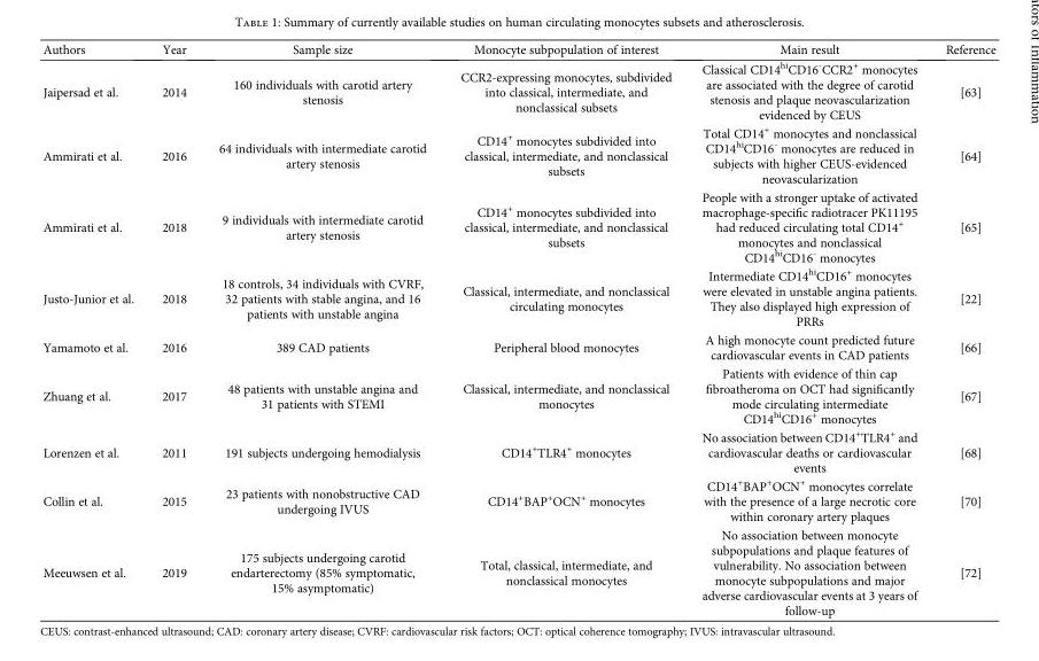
<table><thead><tr><td>Authors</td><td>Year</td><td>Sample size</td><td>Monocyte subpopulation of interest</td><td>Main result</td><td>Reference</td></tr></thead><tbody><tr><td>Jaipersad et al.</td><td>2014</td><td>160 individuals with carotid artery stenosis</td><td>CCR2-expressing monocytes, subdivided into classical, intermediate, and nonclassical subsets</td><td>Classical CD14<sup>hi</sup>CD16<sup>-</sup>CCR2<sup>+</sup> monocytes are associated with the degree of carotid stenosis and plaque neovascularization evidenced by CEUS</td><td>[63]</td></tr><tr><td>Ammirati et al.</td><td>2016</td><td>64 individuals with intermediate carotid artery stenosis</td><td>CD14<sup>+</sup> monocytes subdivided into classical, intermediate, and nonclassical subsets</td><td>Total CD14<sup>+</sup> monocytes and nonclassical CD14<sup>hi</sup>CD16<sup>-</sup> monocytes are reduced in subjects with higher CEUS-evidenced neovascularization</td><td>[64]</td></tr><tr><td>Ammirati et al.</td><td>2018</td><td>9 individuals with intermediate carotid artery stenosis</td><td>CD14<sup>+</sup> monocytes subdivided into classical, intermediate, and nonclassical subsets</td><td>People with a stronger uptake of activated macrophage-specific radiotracer PK11195 had reduced circulating total CD14<sup>+</sup> monocytes and nonclassical CD14<sup>hi</sup>CD16<sup>-</sup> monocytes</td><td>[65]</td></tr><tr><td>Justo-Junior et al.</td><td>2018</td><td>18 controls, 34 individuals with CVRF, 32 patients with stable angina, and 16 patients with unstable angina</td><td>Classical, intermediate, and nonclassical circulating monocytes</td><td>Intermediate CD14<sup>hi</sup>CD16<sup>+</sup> monocytes were elevated in unstable angina patients. They also displayed high expression of PRRs</td><td>[22]</td></tr><tr><td>Yamamoto et al.</td><td>2016</td><td>389 CAD patients</td><td>Peripheral blood monocytes</td><td>A high monocyte count predicted future cardiovascular events in CAD patients</td><td>[66]</td></tr><tr><td>Zhuang et al.</td><td>2017</td><td>48 patients with unstable angina and 31 patients with STEMI</td><td>Classical, intermediate, and nonclassical monocytes</td><td>Patients with evidence of thin cap fibroatheroma on OCT had significantly mode circulating intermediate CD14<sup>hi</sup>CD16<sup>+</sup> monocytes</td><td>[67]</td></tr><tr><td>Lorenzen et al.</td><td>2011</td><td>191 subjects undergoing hemodialysis</td><td>CD14<sup>+</sup>TLR4<sup>+</sup> monocytes</td><td>No association between CD14<sup>+</sup>TLR4<sup>+</sup> and cardiovascular deaths or cardiovascular events</td><td>[68]</td></tr><tr><td>Collin et al.</td><td>2015</td><td>23 patients with nonobstructive CAD undergoing IVUS</td><td>CD14<sup>+</sup>BAP<sup>+</sup>OCN<sup>+</sup> monocytes</td><td>CD14<sup>+</sup>BAP<sup>+</sup>OCN<sup>+</sup> monocytes correlate with the presence of a large necrotic core within coronary artery plaques</td><td>[70]</td></tr><tr><td>Meeuwsen et al.</td><td>2019</td><td>175 subjects undergoing carotid endarterectomy (85% symptomatic, 15% asymptomatic)</td><td>Total, classical, intermediate, and nonclassical monocytes</td><td>No association between monocyte subpopulations and plaque features of vulnerability. No association between monocyte subpopulations and major adverse cardiovascular events at 3 years of follow-up</td><td>[72]</td></tr></tbody></table>